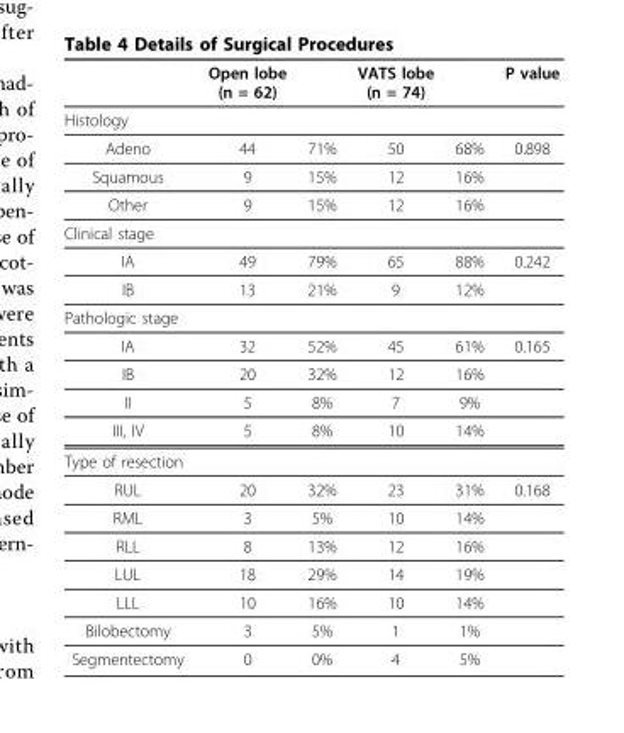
<table><thead><tr><td></td><td>Open lobe (n = 62)</td><td></td><td>VATS lobe (n = 74)</td><td></td><td>P value</td></tr></thead><tbody><tr><td colspan="6">Histology</td></tr><tr><td>Adeno</td><td>44</td><td>71%</td><td>50</td><td>68%</td><td>0.898</td></tr><tr><td>Squamous</td><td>9</td><td>15%</td><td>12</td><td>16%</td><td></td></tr><tr><td>Other</td><td>9</td><td>15%</td><td>12</td><td>16%</td><td></td></tr><tr><td colspan="6">Clinical stage</td></tr><tr><td>IA</td><td>49</td><td>79%</td><td>65</td><td>88%</td><td>0.242</td></tr><tr><td>IB</td><td>13</td><td>21%</td><td>9</td><td>12%</td><td></td></tr><tr><td colspan="6">Pathologic stage</td></tr><tr><td>IA</td><td>32</td><td>52%</td><td>45</td><td>61%</td><td>0.165</td></tr><tr><td>IB</td><td>20</td><td>32%</td><td>12</td><td>16%</td><td></td></tr><tr><td>II</td><td>5</td><td>8%</td><td>7</td><td>9%</td><td></td></tr><tr><td>III, IV</td><td>5</td><td>8%</td><td>10</td><td>14%</td><td></td></tr><tr><td colspan="6">Type of resection</td></tr><tr><td>RUL</td><td>20</td><td>32%</td><td>23</td><td>31%</td><td>0.168</td></tr><tr><td>RML</td><td>3</td><td>5%</td><td>10</td><td>14%</td><td></td></tr><tr><td>RLL</td><td>8</td><td>13%</td><td>12</td><td>16%</td><td></td></tr><tr><td>LUL</td><td>18</td><td>29%</td><td>14</td><td>19%</td><td></td></tr><tr><td>LLL</td><td>10</td><td>16%</td><td>10</td><td>14%</td><td></td></tr><tr><td>Bilobectomy</td><td>3</td><td>5%</td><td>1</td><td>1%</td><td></td></tr><tr><td>Segmentectomy</td><td>0</td><td>0%</td><td>4</td><td>5%</td><td></td></tr></tbody></table>